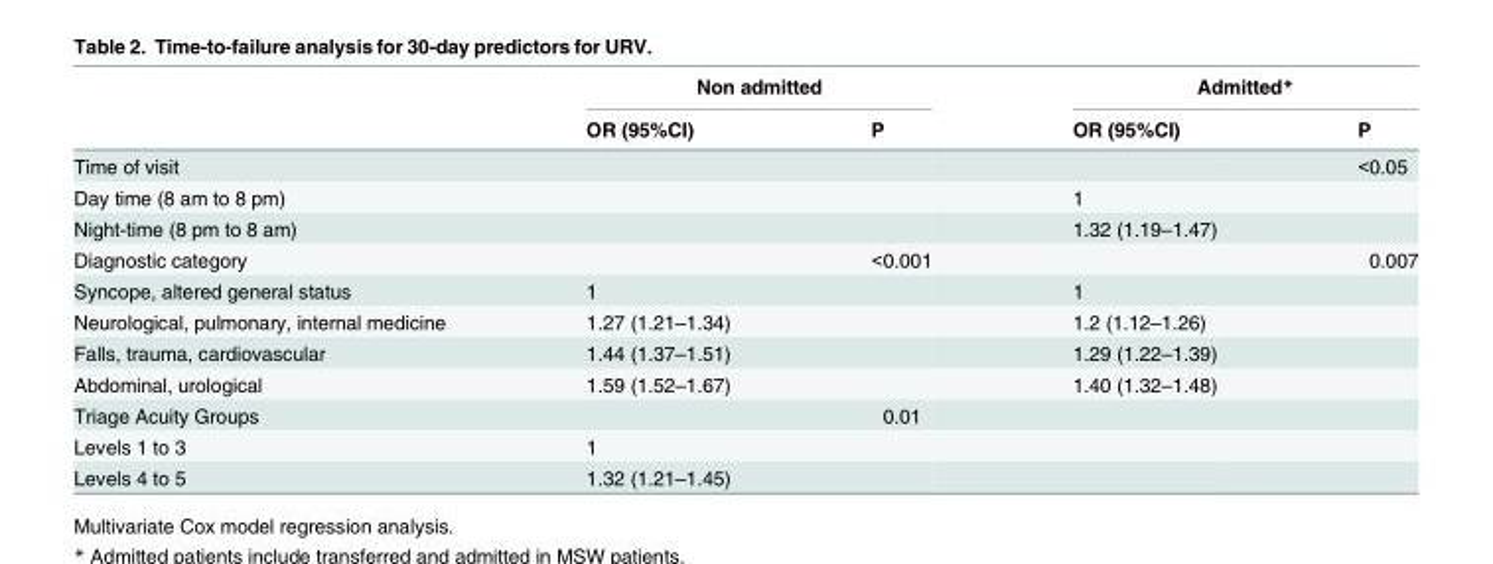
<table><thead><tr><td rowspan="2"></td><td colspan="2">Non admitted</td><td colspan="2">Admitted*</td></tr><tr><td>OR (95%CI)</td><td>P</td><td>OR (95%CI)</td><td>P</td></tr></thead><tbody><tr><td>Time of visit</td><td></td><td></td><td></td><td>&lt;0.05</td></tr><tr><td>Day time (8 am to 8 pm)</td><td></td><td></td><td>1</td><td></td></tr><tr><td>Night-time (8 pm to 8 am)</td><td></td><td></td><td>1.32 (1.19–1.47)</td><td></td></tr><tr><td>Diagnostic category</td><td></td><td>&lt;0.001</td><td></td><td>0.007</td></tr><tr><td>Syncope, altered general status</td><td>1</td><td></td><td>1</td><td></td></tr><tr><td>Neurological, pulmonary, internal medicine</td><td>1.27 (1.21–1.34)</td><td></td><td>1.2 (1.12–1.26)</td><td></td></tr><tr><td>Falls, trauma, cardiovascular</td><td>1.44 (1.37–1.51)</td><td></td><td>1.29 (1.22–1.39)</td><td></td></tr><tr><td>Abdominal, urological</td><td>1.59 (1.52–1.67)</td><td></td><td>1.40 (1.32–1.48)</td><td></td></tr><tr><td>Triage Acuity Groups</td><td></td><td>0.01</td><td></td><td></td></tr><tr><td>Levels 1 to 3</td><td>1</td><td></td><td></td><td></td></tr><tr><td>Levels 4 to 5</td><td>1.32 (1.21–1.45)</td><td></td><td></td><td></td></tr></tbody></table>